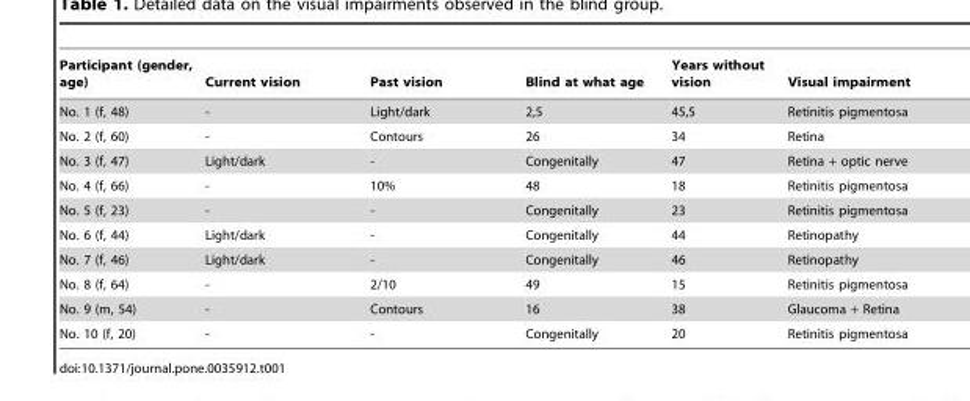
<table><thead><tr><td>Participant (gender, age)</td><td>Current vision</td><td>Past vision</td><td>Blind at what age</td><td>Years without vision</td><td>Visual impairment</td></tr></thead><tbody><tr><td>No. 1 (f, 48)</td><td>-</td><td>Light/dark</td><td>2,5</td><td>45,5</td><td>Retinitis pigmentosa</td></tr><tr><td>No. 2 (f, 60)</td><td>-</td><td>Contours</td><td>26</td><td>34</td><td>Retina</td></tr><tr><td>No. 3 (f, 47)</td><td>Light/dark</td><td>-</td><td>Congenitally</td><td>47</td><td>Retina + optic nerve</td></tr><tr><td>No. 4 (f, 66)</td><td>-</td><td>10%</td><td>48</td><td>18</td><td>Retinitis pigmentosa</td></tr><tr><td>No. 5 (f, 23)</td><td>-</td><td>-</td><td>Congenitally</td><td>23</td><td>Retinitis pigmentosa</td></tr><tr><td>No. 6 (f, 44)</td><td>Light/dark</td><td>-</td><td>Congenitally</td><td>44</td><td>Retinopathy</td></tr><tr><td>No. 7 (f, 46)</td><td>Light/dark</td><td>-</td><td>Congenitally</td><td>46</td><td>Retinopathy</td></tr><tr><td>No. 8 (f, 64)</td><td>-</td><td>2/10</td><td>49</td><td>15</td><td>Retinitis pigmentosa</td></tr><tr><td>No. 9 (m, 54)</td><td>-</td><td>Contours</td><td>16</td><td>38</td><td>Glaucoma + Retina</td></tr><tr><td>No. 10 (f, 20)</td><td>-</td><td>-</td><td>Congenitally</td><td>20</td><td>Retinitis pigmentosa</td></tr></tbody></table>